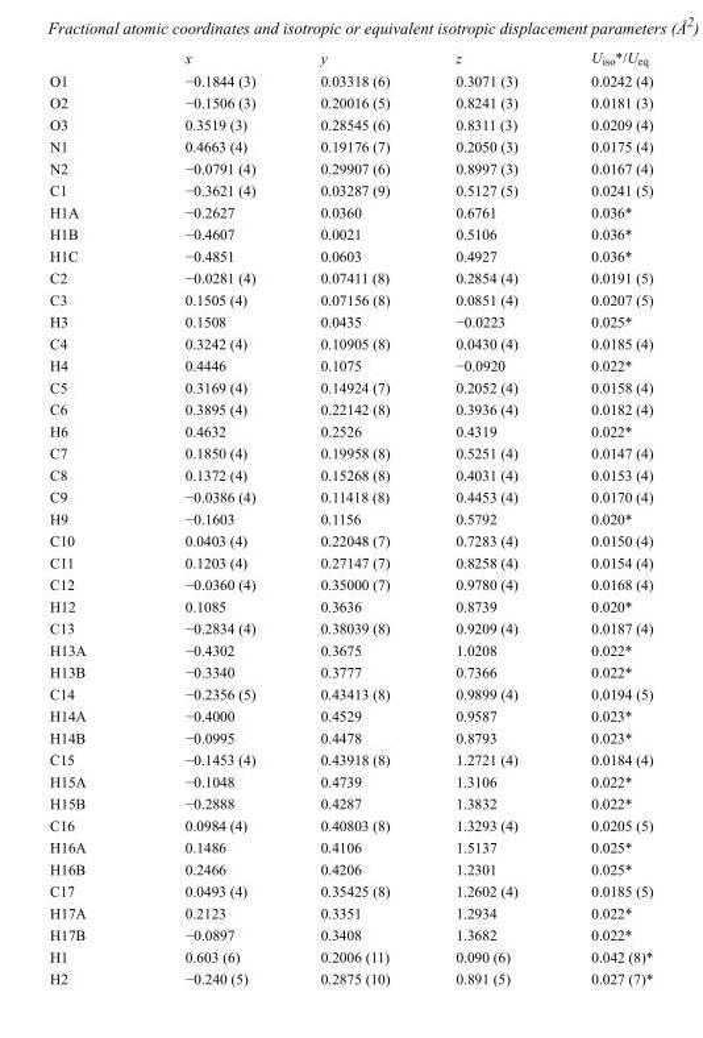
<table><thead><tr><td></td><td>x</td><td>y</td><td>z</td><td>U<sub>iso</sub>*/U<sub>eq</sub></td></tr></thead><tbody><tr><td>O1</td><td>−0.1844 (3)</td><td>0.03318 (6)</td><td>0.3071 (3)</td><td>0.0242 (4)</td></tr><tr><td>O2</td><td>−0.1506 (3)</td><td>0.20016 (5)</td><td>0.8241 (3)</td><td>0.0181 (3)</td></tr><tr><td>O3</td><td>0.3519 (3)</td><td>0.28545 (6)</td><td>0.8311 (3)</td><td>0.0209 (4)</td></tr><tr><td>N1</td><td>0.4663 (4)</td><td>0.19176 (7)</td><td>0.2050 (3)</td><td>0.0175 (4)</td></tr><tr><td>N2</td><td>−0.0791 (4)</td><td>0.29907 (6)</td><td>0.8997 (3)</td><td>0.0167 (4)</td></tr><tr><td>C1</td><td>−0.3621 (4)</td><td>0.03287 (9)</td><td>0.5127 (5)</td><td>0.0241 (5)</td></tr><tr><td>H1A</td><td>−0.2627</td><td>0.0360</td><td>0.6761</td><td>0.036*</td></tr><tr><td>H1B</td><td>−0.4607</td><td>0.0021</td><td>0.5106</td><td>0.036*</td></tr><tr><td>H1C</td><td>−0.4851</td><td>0.0603</td><td>0.4927</td><td>0.036*</td></tr><tr><td>C2</td><td>−0.0281 (4)</td><td>0.07411 (8)</td><td>0.2854 (4)</td><td>0.0191 (5)</td></tr><tr><td>C3</td><td>0.1505 (4)</td><td>0.07156 (8)</td><td>0.0851 (4)</td><td>0.0207 (5)</td></tr><tr><td>H3</td><td>0.1508</td><td>0.0435</td><td>−0.0223</td><td>0.025*</td></tr><tr><td>C4</td><td>0.3242 (4)</td><td>0.10905 (8)</td><td>0.0430 (4)</td><td>0.0185 (4)</td></tr><tr><td>H4</td><td>0.4446</td><td>0.1075</td><td>−0.0920</td><td>0.022*</td></tr><tr><td>C5</td><td>0.3169 (4)</td><td>0.14924 (7)</td><td>0.2052 (4)</td><td>0.0158 (4)</td></tr><tr><td>C6</td><td>0.3895 (4)</td><td>0.22142 (8)</td><td>0.3936 (4)</td><td>0.0182 (4)</td></tr><tr><td>H6</td><td>0.4632</td><td>0.2526</td><td>0.4319</td><td>0.022*</td></tr><tr><td>C7</td><td>0.1850 (4)</td><td>0.19958 (8)</td><td>0.5251 (4)</td><td>0.0147 (4)</td></tr><tr><td>C8</td><td>0.1372 (4)</td><td>0.15268 (8)</td><td>0.4031 (4)</td><td>0.0153 (4)</td></tr><tr><td>C9</td><td>−0.0386 (4)</td><td>0.11418 (8)</td><td>0.4453 (4)</td><td>0.0170 (4)</td></tr><tr><td>H9</td><td>−0.1603</td><td>0.1156</td><td>0.5792</td><td>0.020*</td></tr><tr><td>C10</td><td>0.0403 (4)</td><td>0.22048 (7)</td><td>0.7283 (4)</td><td>0.0150 (4)</td></tr><tr><td>C11</td><td>0.1203 (4)</td><td>0.27147 (7)</td><td>0.8258 (4)</td><td>0.0154 (4)</td></tr><tr><td>C12</td><td>−0.0360 (4)</td><td>0.35000 (7)</td><td>0.9780 (4)</td><td>0.0168 (4)</td></tr><tr><td>H12</td><td>0.1085</td><td>0.3636</td><td>0.8739</td><td>0.020*</td></tr><tr><td>C13</td><td>−0.2834 (4)</td><td>0.38039 (8)</td><td>0.9209 (4)</td><td>0.0187 (4)</td></tr><tr><td>H13A</td><td>−0.4302</td><td>0.3675</td><td>1.0208</td><td>0.022*</td></tr><tr><td>H13B</td><td>−0.3340</td><td>0.3777</td><td>0.7366</td><td>0.022*</td></tr><tr><td>C14</td><td>−0.2356 (5)</td><td>0.43413 (8)</td><td>0.9899 (4)</td><td>0.0194 (5)</td></tr><tr><td>H14A</td><td>−0.4000</td><td>0.4529</td><td>0.9587</td><td>0.023*</td></tr><tr><td>H14B</td><td>−0.0995</td><td>0.4478</td><td>0.8793</td><td>0.023*</td></tr><tr><td>C15</td><td>−0.1453 (4)</td><td>0.43918 (8)</td><td>1.2721 (4)</td><td>0.0184 (4)</td></tr><tr><td>H15A</td><td>−0.1048</td><td>0.4739</td><td>1.3106</td><td>0.022*</td></tr><tr><td>H15B</td><td>−0.2888</td><td>0.4287</td><td>1.3832</td><td>0.022*</td></tr><tr><td>C16</td><td>0.0984 (4)</td><td>0.40803 (8)</td><td>1.3293 (4)</td><td>0.0205 (5)</td></tr><tr><td>H16A</td><td>0.1486</td><td>0.4106</td><td>1.5137</td><td>0.025*</td></tr><tr><td>H16B</td><td>0.2466</td><td>0.4206</td><td>1.2301</td><td>0.025*</td></tr><tr><td>C17</td><td>0.0493 (4)</td><td>0.35425 (8)</td><td>1.2602 (4)</td><td>0.0185 (5)</td></tr><tr><td>H17A</td><td>0.2123</td><td>0.3351</td><td>1.2934</td><td>0.022*</td></tr><tr><td>H17B</td><td>−0.0897</td><td>0.3408</td><td>1.3682</td><td>0.022*</td></tr><tr><td>H1</td><td>0.603 (6)</td><td>0.2006 (11)</td><td>0.090 (6)</td><td>0.042 (8)*</td></tr><tr><td>H2</td><td>−0.240 (5)</td><td>0.2875 (10)</td><td>0.891 (5)</td><td>0.027 (7)*</td></tr></tbody></table>